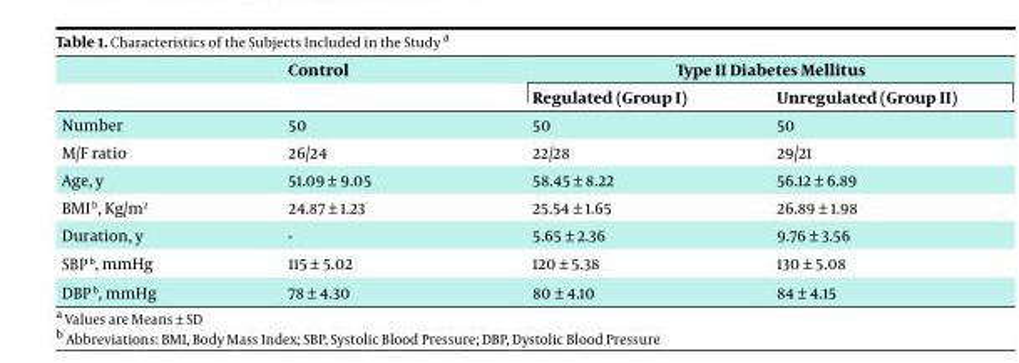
<table><thead><tr><td rowspan="2"></td><td rowspan="2">Control</td><td colspan="2">Type II Diabetes Mellitus</td></tr><tr><td>Regulated (Group I)</td><td>Unregulated (Group II)</td></tr></thead><tbody><tr><td>Number</td><td>50</td><td>50</td><td>50</td></tr><tr><td>M/F ratio</td><td>26/24</td><td>22/28</td><td>29/21</td></tr><tr><td>Age, y</td><td>51.09 ± 9.05</td><td>58.45 ± 8.22</td><td>56.12 ± 6.89</td></tr><tr><td>BMI b, Kg/m<sup>2</sup></td><td>24.87 ± 1.23</td><td>25.54 ± 1.65</td><td>26.89 ± 1.98</td></tr><tr><td>Duration, y</td><td>-</td><td>5.65 ± 2.36</td><td>9.76 ± 3.56</td></tr><tr><td>SBP b, mmHg</td><td>115 ± 5.02</td><td>120 ± 5.38</td><td>130 ± 5.08</td></tr><tr><td>DBP b, mmHg</td><td>78 ± 4.30</td><td>80 ± 4.10</td><td>84 ± 4.15</td></tr></tbody></table>